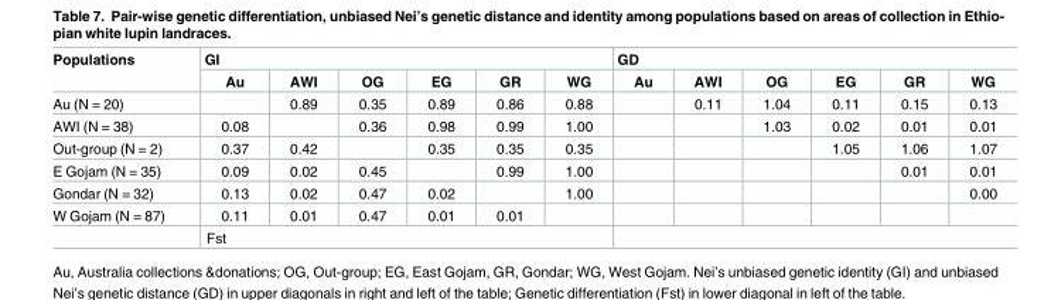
<table><thead><tr><td rowspan="2">Populations</td><td colspan="6">GI</td><td colspan="6">GD</td></tr><tr><td>Au</td><td>AWI</td><td>OG</td><td>EG</td><td>GR</td><td>WG</td><td>Au</td><td>AWI</td><td>OG</td><td>EG</td><td>GR</td><td>WG</td></tr></thead><tbody><tr><td>Au (N = 20)</td><td></td><td>0.89</td><td>0.35</td><td>0.89</td><td>0.86</td><td>0.88</td><td></td><td>0.11</td><td>1.04</td><td>0.11</td><td>0.15</td><td>0.13</td></tr><tr><td>AWI (N = 38)</td><td>0.08</td><td></td><td>0.36</td><td>0.98</td><td>0.99</td><td>1.00</td><td></td><td></td><td>1.03</td><td>0.02</td><td>0.01</td><td>0.01</td></tr><tr><td>Out-group (N = 2)</td><td>0.37</td><td>0.42</td><td></td><td>0.35</td><td>0.35</td><td>0.35</td><td></td><td></td><td></td><td>1.05</td><td>1.06</td><td>1.07</td></tr><tr><td>E Gojam (N = 35)</td><td>0.09</td><td>0.02</td><td>0.45</td><td></td><td>0.99</td><td>1.00</td><td></td><td></td><td></td><td></td><td>0.01</td><td>0.01</td></tr><tr><td>Gondar (N = 32)</td><td>0.13</td><td>0.02</td><td>0.47</td><td>0.02</td><td></td><td>1.00</td><td></td><td></td><td></td><td></td><td></td><td>0.00</td></tr><tr><td rowspan="2">W Gojam (N = 87)</td><td>0.11</td><td>0.01</td><td>0.47</td><td>0.01</td><td>0.01</td><td></td><td></td><td></td><td></td><td></td><td></td><td></td></tr><tr><td colspan="6">Fst</td><td colspan="6"></td></tr></tbody></table>